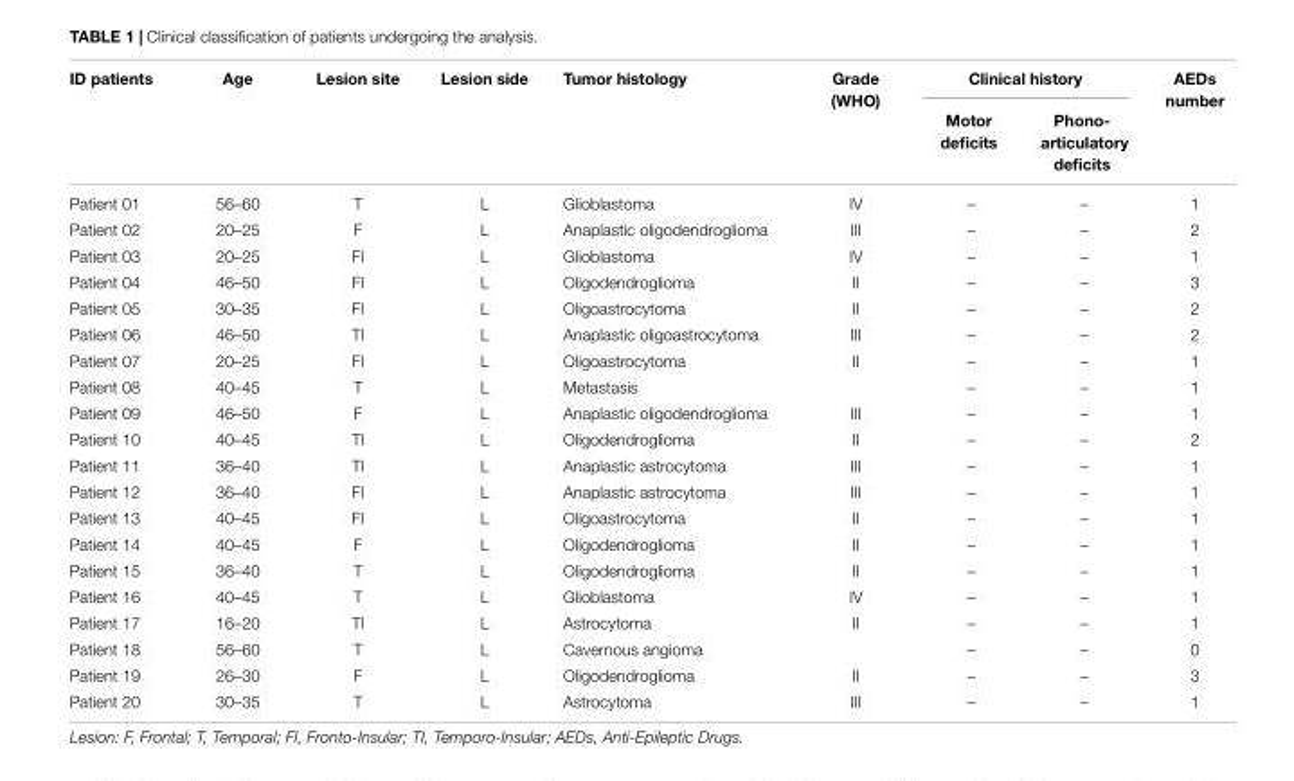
<table><thead><tr><td rowspan="2">ID patients</td><td rowspan="2">Age</td><td rowspan="2">Lesion site</td><td rowspan="2">Lesion side</td><td rowspan="2">Tumor histology</td><td rowspan="2">Grade (WHO)</td><td colspan="2">Clinical history</td><td rowspan="2">AEDs number</td></tr><tr><td>Motor deficits</td><td>Phono- articulatory deficits</td></tr></thead><tbody><tr><td>Patient 01</td><td>56–60</td><td>T</td><td>L</td><td>Glioblastoma</td><td>IV</td><td>–</td><td>–</td><td>1</td></tr><tr><td>Patient 02</td><td>20–25</td><td>F</td><td>L</td><td>Anaplastic oligodendroglioma</td><td>III</td><td>–</td><td>–</td><td>2</td></tr><tr><td>Patient 03</td><td>20–25</td><td>FI</td><td>L</td><td>Glioblastoma</td><td>IV</td><td>–</td><td>–</td><td>1</td></tr><tr><td>Patient 04</td><td>46–50</td><td>FI</td><td>L</td><td>Oligodendroglioma</td><td>II</td><td>–</td><td>–</td><td>3</td></tr><tr><td>Patient 05</td><td>30–35</td><td>FI</td><td>L</td><td>Oligoastrocytoma</td><td>II</td><td>–</td><td>–</td><td>2</td></tr><tr><td>Patient 06</td><td>46–50</td><td>TI</td><td>L</td><td>Anaplastic oligoastrocytoma</td><td>III</td><td>–</td><td>–</td><td>2</td></tr><tr><td>Patient 07</td><td>20–25</td><td>FI</td><td>L</td><td>Oligoastrocytoma</td><td>II</td><td>–</td><td>–</td><td>1</td></tr><tr><td>Patient 08</td><td>40–45</td><td>T</td><td>L</td><td>Metastasis</td><td></td><td>–</td><td>–</td><td>1</td></tr><tr><td>Patient 09</td><td>46–50</td><td>F</td><td>L</td><td>Anaplastic oligodendroglioma</td><td>III</td><td>–</td><td>–</td><td>1</td></tr><tr><td>Patient 10</td><td>40–45</td><td>TI</td><td>L</td><td>Oligodendroglioma</td><td>II</td><td>–</td><td>–</td><td>2</td></tr><tr><td>Patient 11</td><td>36–40</td><td>TI</td><td>L</td><td>Anaplastic astrocytoma</td><td>III</td><td>–</td><td>–</td><td>1</td></tr><tr><td>Patient 12</td><td>36–40</td><td>FI</td><td>L</td><td>Anaplastic astrocytoma</td><td>III</td><td>–</td><td>–</td><td>1</td></tr><tr><td>Patient 13</td><td>40–45</td><td>FI</td><td>L</td><td>Oligoastrocytoma</td><td>II</td><td>–</td><td>–</td><td>1</td></tr><tr><td>Patient 14</td><td>40–45</td><td>F</td><td>L</td><td>Oligodendroglioma</td><td>II</td><td>–</td><td>–</td><td>1</td></tr><tr><td>Patient 15</td><td>36–40</td><td>T</td><td>L</td><td>Oligodendroglioma</td><td>II</td><td>–</td><td>–</td><td>1</td></tr><tr><td>Patient 16</td><td>40–45</td><td>T</td><td>L</td><td>Glioblastoma</td><td>IV</td><td>–</td><td>–</td><td>1</td></tr><tr><td>Patient 17</td><td>16–20</td><td>TI</td><td>L</td><td>Astrocytoma</td><td>II</td><td>–</td><td>–</td><td>1</td></tr><tr><td>Patient 18</td><td>56–60</td><td>T</td><td>L</td><td>Cavernous angioma</td><td></td><td>–</td><td>–</td><td>0</td></tr><tr><td>Patient 19</td><td>26–30</td><td>F</td><td>L</td><td>Oligodendroglioma</td><td>II</td><td>–</td><td>–</td><td>3</td></tr><tr><td>Patient 20</td><td>30–35</td><td>T</td><td>L</td><td>Astrocytoma</td><td>III</td><td>–</td><td>–</td><td>1</td></tr></tbody></table>